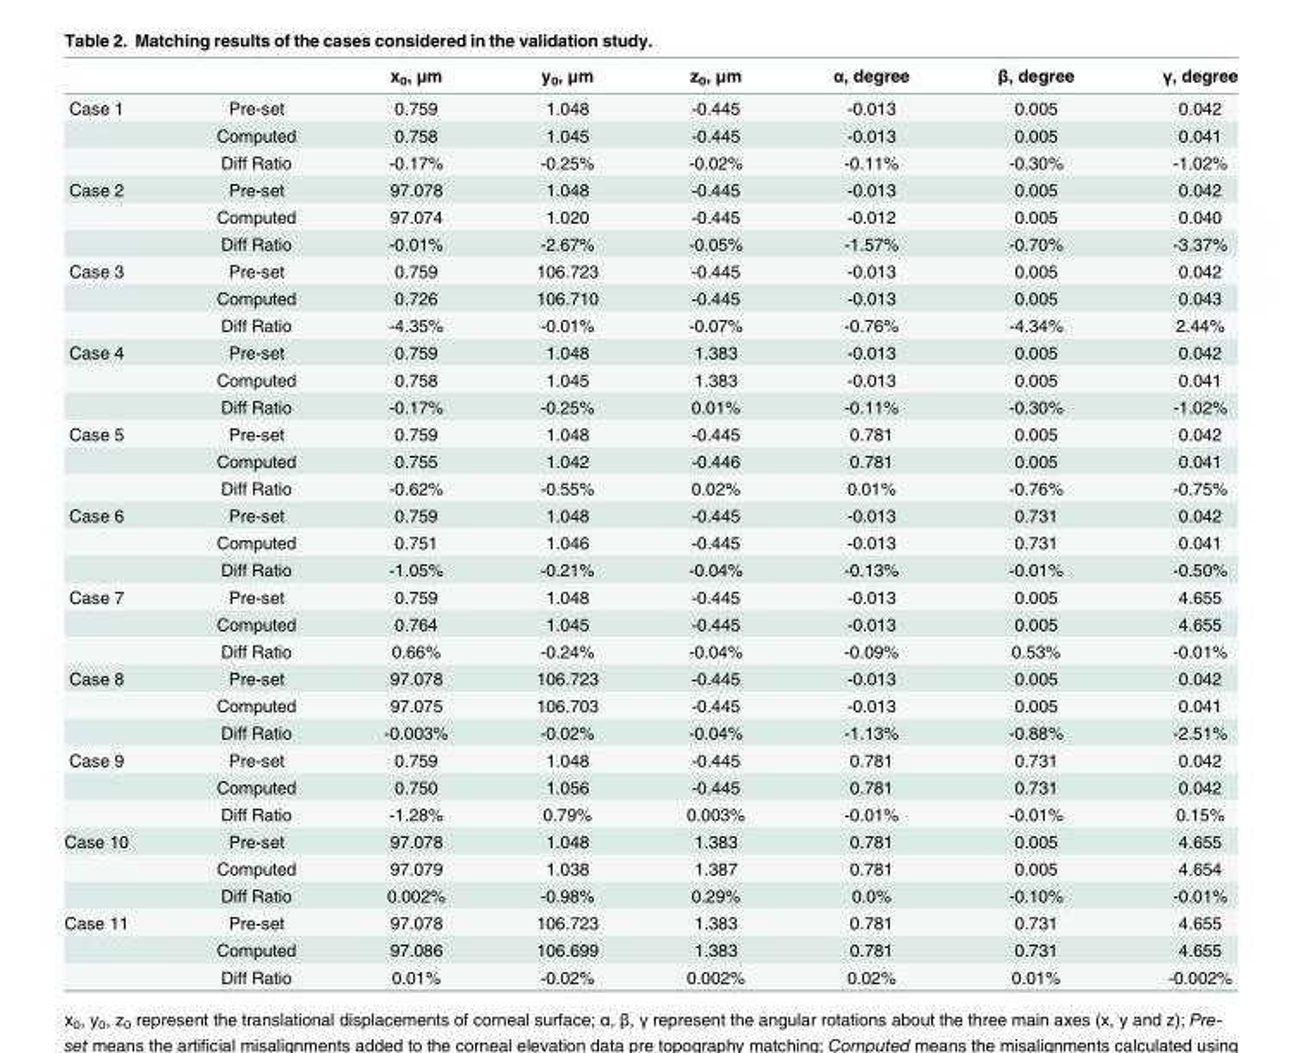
<table><thead><tr><td></td><td></td><td>x<sub>0</sub>, μm</td><td>y<sub>0</sub>, μm</td><td>z<sub>0</sub>, μm</td><td>α, degree</td><td>β, degree</td><td>γ, degree</td></tr></thead><tbody><tr><td rowspan="3">Case 1</td><td>Pre-set</td><td>0.759</td><td>1.048</td><td>-0.445</td><td>-0.013</td><td>0.005</td><td>0.042</td></tr><tr><td>Computed</td><td>0.758</td><td>1.045</td><td>-0.445</td><td>-0.013</td><td>0.005</td><td>0.041</td></tr><tr><td>Diff Ratio</td><td>-0.17%</td><td>-0.25%</td><td>-0.02%</td><td>-0.11%</td><td>-0.30%</td><td>-1.02%</td></tr><tr><td rowspan="3">Case 2</td><td>Pre-set</td><td>97.078</td><td>1.048</td><td>-0.445</td><td>-0.013</td><td>0.005</td><td>0.042</td></tr><tr><td>Computed</td><td>97.074</td><td>1.020</td><td>-0.445</td><td>-0.012</td><td>0.005</td><td>0.040</td></tr><tr><td>Diff Ratio</td><td>-0.01%</td><td>-2.67%</td><td>-0.05%</td><td>-1.57%</td><td>-0.70%</td><td>-3.37%</td></tr><tr><td rowspan="3">Case 3</td><td>Pre-set</td><td>0.759</td><td>106.723</td><td>-0.445</td><td>-0.013</td><td>0.005</td><td>0.042</td></tr><tr><td>Computed</td><td>0.726</td><td>106.710</td><td>-0.445</td><td>-0.013</td><td>0.005</td><td>0.043</td></tr><tr><td>Diff Ratio</td><td>-4.35%</td><td>-0.01%</td><td>-0.07%</td><td>-0.76%</td><td>-4.34%</td><td>2.44%</td></tr><tr><td rowspan="3">Case 4</td><td>Pre-set</td><td>0.759</td><td>1.048</td><td>1.383</td><td>-0.013</td><td>0.005</td><td>0.042</td></tr><tr><td>Computed</td><td>0.758</td><td>1.045</td><td>1.383</td><td>-0.013</td><td>0.005</td><td>0.041</td></tr><tr><td>Diff Ratio</td><td>-0.17%</td><td>-0.25%</td><td>0.01%</td><td>-0.11%</td><td>-0.30%</td><td>-1.02%</td></tr><tr><td rowspan="3">Case 5</td><td>Pre-set</td><td>0.759</td><td>1.048</td><td>-0.445</td><td>0.781</td><td>0.005</td><td>0.042</td></tr><tr><td>Computed</td><td>0.755</td><td>1.042</td><td>-0.446</td><td>0.781</td><td>0.005</td><td>0.041</td></tr><tr><td>Diff Ratio</td><td>-0.62%</td><td>-0.55%</td><td>0.02%</td><td>0.01%</td><td>-0.76%</td><td>-0.75%</td></tr><tr><td rowspan="3">Case 6</td><td>Pre-set</td><td>0.759</td><td>1.048</td><td>-0.445</td><td>-0.013</td><td>0.731</td><td>0.042</td></tr><tr><td>Computed</td><td>0.751</td><td>1.046</td><td>-0.445</td><td>-0.013</td><td>0.731</td><td>0.041</td></tr><tr><td>Diff Ratio</td><td>-1.05%</td><td>-0.21%</td><td>-0.04%</td><td>-0.13%</td><td>-0.01%</td><td>-0.50%</td></tr><tr><td rowspan="3">Case 7</td><td>Pre-set</td><td>0.759</td><td>1.048</td><td>-0.445</td><td>-0.013</td><td>0.005</td><td>4.655</td></tr><tr><td>Computed</td><td>0.764</td><td>1.045</td><td>-0.445</td><td>-0.013</td><td>0.005</td><td>4.655</td></tr><tr><td>Diff Ratio</td><td>0.66%</td><td>-0.24%</td><td>-0.04%</td><td>-0.09%</td><td>0.53%</td><td>-0.01%</td></tr><tr><td rowspan="3">Case 8</td><td>Pre-set</td><td>97.078</td><td>106.723</td><td>-0.445</td><td>-0.013</td><td>0.005</td><td>0.042</td></tr><tr><td>Computed</td><td>97.075</td><td>106.703</td><td>-0.445</td><td>-0.013</td><td>0.005</td><td>0.041</td></tr><tr><td>Diff Ratio</td><td>-0.003%</td><td>-0.02%</td><td>-0.04%</td><td>-1.13%</td><td>-0.88%</td><td>-2.51%</td></tr><tr><td rowspan="3">Case 9</td><td>Pre-set</td><td>0.759</td><td>1.048</td><td>-0.445</td><td>0.781</td><td>0.731</td><td>0.042</td></tr><tr><td>Computed</td><td>0.750</td><td>1.056</td><td>-0.445</td><td>0.781</td><td>0.731</td><td>0.042</td></tr><tr><td>Diff Ratio</td><td>-1.28%</td><td>0.79%</td><td>0.003%</td><td>-0.01%</td><td>-0.01%</td><td>0.15%</td></tr><tr><td rowspan="3">Case 10</td><td>Pre-set</td><td>97.078</td><td>1.048</td><td>1.383</td><td>0.781</td><td>0.005</td><td>4.655</td></tr><tr><td>Computed</td><td>97.079</td><td>1.038</td><td>1.387</td><td>0.781</td><td>0.005</td><td>4.654</td></tr><tr><td>Diff Ratio</td><td>0.002%</td><td>-0.98%</td><td>0.29%</td><td>0.0%</td><td>-0.10%</td><td>-0.01%</td></tr><tr><td rowspan="3">Case 11</td><td>Pre-set</td><td>97.078</td><td>106.723</td><td>1.383</td><td>0.781</td><td>0.731</td><td>4.655</td></tr><tr><td>Computed</td><td>97.086</td><td>106.699</td><td>1.383</td><td>0.781</td><td>0.731</td><td>4.655</td></tr><tr><td>Diff Ratio</td><td>0.01%</td><td>-0.02%</td><td>0.002%</td><td>0.02%</td><td>0.01%</td><td>-0.002%</td></tr></tbody></table>